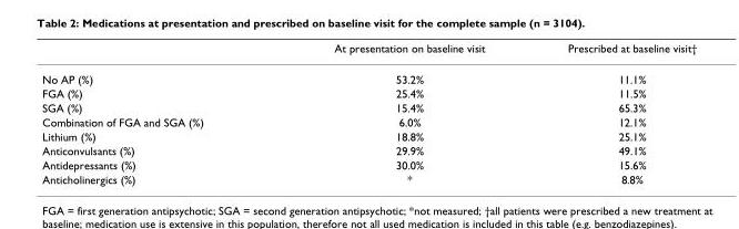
<table><thead><tr><td></td><td>At presentation on baseline visit</td><td>Prescribed at baseline visit†</td></tr></thead><tbody><tr><td>No AP (%)</td><td>53.2%</td><td>11.1%</td></tr><tr><td>FGA (%)</td><td>25.4%</td><td>11.5%</td></tr><tr><td>SGA (%)</td><td>15.4%</td><td>65.3%</td></tr><tr><td>Combination of FGA and SGA (%)</td><td>6.0%</td><td>12.1%</td></tr><tr><td>Lithium (%)</td><td>18.8%</td><td>25.1%</td></tr><tr><td>Anticonvulsants (%)</td><td>29.9%</td><td>49.1%</td></tr><tr><td>Antidepressants (%)</td><td>30.0%</td><td>15.6%</td></tr><tr><td>Anticholinergics (%)</td><td>*</td><td>8.8%</td></tr></tbody></table>